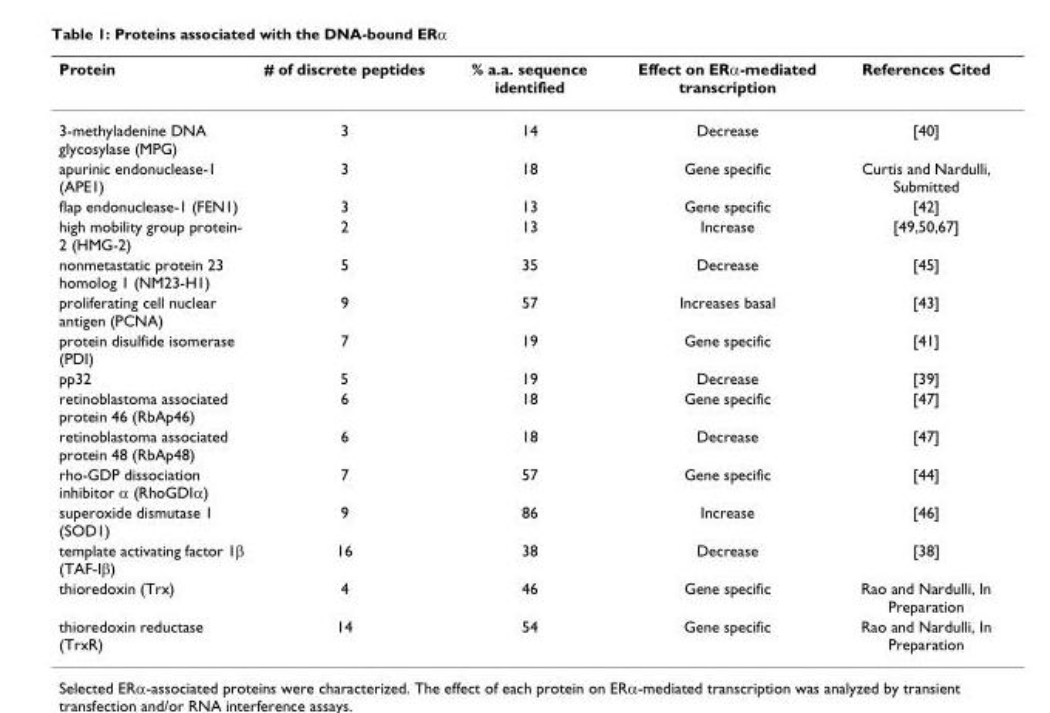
<table><thead><tr><td>Protein</td><td># of discrete peptides</td><td>% a.a. sequence identified</td><td>Effect on ERα-mediated transcription</td><td>References Cited</td></tr></thead><tbody><tr><td>3-methyladenine DNA glycosylase (MPG)</td><td>3</td><td>14</td><td>Decrease</td><td>[40]</td></tr><tr><td>apurinic endonuclease-1 (APE1)</td><td>3</td><td>18</td><td>Gene specific</td><td>Curtis and Nardulli, Submitted</td></tr><tr><td>flap endonuclease-1 (FEN1)</td><td>3</td><td>13</td><td>Gene specific</td><td>[42]</td></tr><tr><td>high mobility group protein- 2 (HMG-2)</td><td>2</td><td>13</td><td>Increase</td><td>[49,50,67]</td></tr><tr><td>nonmetastatic protein 23 homolog 1 (NM23-H1)</td><td>5</td><td>35</td><td>Decrease</td><td>[45]</td></tr><tr><td>proliferating cell nuclear antigen (PCNA)</td><td>9</td><td>57</td><td>Increases basal</td><td>[43]</td></tr><tr><td>protein disulfide isomerase (PDI)</td><td>7</td><td>19</td><td>Gene specific</td><td>[41]</td></tr><tr><td>pp32</td><td>5</td><td>19</td><td>Decrease</td><td>[39]</td></tr><tr><td>retinoblastoma associated protein 46 (RbAp46)</td><td>6</td><td>18</td><td>Gene specific</td><td>[47]</td></tr><tr><td>retinoblastoma associated protein 48 (RbAp48)</td><td>6</td><td>18</td><td>Decrease</td><td>[47]</td></tr><tr><td>rho-GDP dissociation inhibitor α (RhoGDIα)</td><td>7</td><td>57</td><td>Gene specific</td><td>[44]</td></tr><tr><td>superoxide dismutase 1 (SOD1)</td><td>9</td><td>86</td><td>Increase</td><td>[46]</td></tr><tr><td>template activating factor 1β (TAF-Iβ)</td><td>16</td><td>38</td><td>Decrease</td><td>[38]</td></tr><tr><td>thioredoxin (Trx)</td><td>4</td><td>46</td><td>Gene specific</td><td>Rao and Nardulli, In Preparation</td></tr><tr><td>thioredoxin reductase (TrxR)</td><td>14</td><td>54</td><td>Gene specific</td><td>Rao and Nardulli, In Preparation</td></tr></tbody></table>